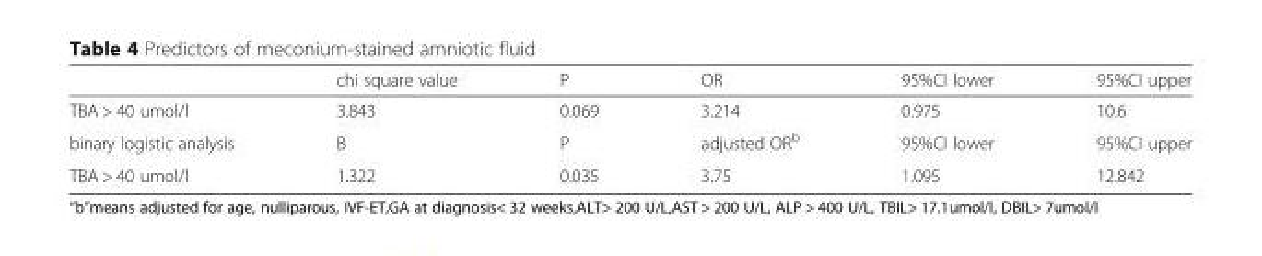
<table><thead><tr><td></td><td>chi square value</td><td>P</td><td>OR</td><td>95%CI lower</td><td>95%CI upper</td></tr></thead><tbody><tr><td>TBA &gt; 40 umol/l</td><td>3.843</td><td>0.069</td><td>3.214</td><td>0.975</td><td>10.6</td></tr><tr><td>binary logistic analysis</td><td>B</td><td>P</td><td>adjusted OR<sup>b</sup></td><td>95%CI lower</td><td>95%CI upper</td></tr><tr><td>TBA &gt; 40 umol/l</td><td>1.322</td><td>0.035</td><td>3.75</td><td>1.095</td><td>12.842</td></tr></tbody></table>